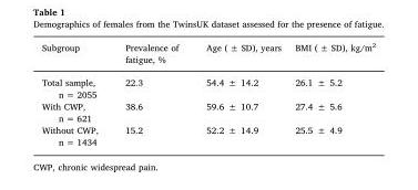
<table><thead><tr><td>Subgroup</td><td>Prevalence of fatigue, %</td><td>Age ( ± SD), years</td><td>BMI ( ± SD), kg/m<sup>2</sup></td></tr></thead><tbody><tr><td>Total sample, n = 2055</td><td>22.3</td><td>54.4 ± 14.2</td><td>26.1 ± 5.2</td></tr><tr><td>With CWP, n = 621</td><td>38.6</td><td>59.6 ± 10.7</td><td>27.4 ± 5.6</td></tr><tr><td>Without CWP, n = 1434</td><td>15.2</td><td>52.2 ± 14.9</td><td>25.5 ± 4.9</td></tr></tbody></table>